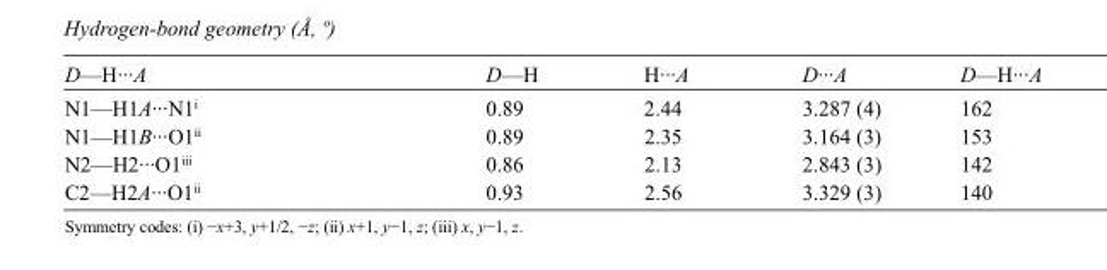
<table><tbody><tr><td>D—H···A</td><td>D—H</td><td>H···A</td><td>D···A</td><td>D—H···A</td></tr><tr><td>N1—H1A···N1<sup>i</sup></td><td>0.89</td><td>2.44</td><td>3.287 (4)</td><td>162</td></tr><tr><td>N1—H1B···O1<sup>ii</sup></td><td>0.89</td><td>2.35</td><td>3.164 (3)</td><td>153</td></tr><tr><td>N2—H2···O1<sup>iii</sup></td><td>0.86</td><td>2.13</td><td>2.843 (3)</td><td>142</td></tr><tr><td>C2—H2A···O1<sup>ii</sup></td><td>0.93</td><td>2.56</td><td>3.329 (3)</td><td>140</td></tr></tbody></table>